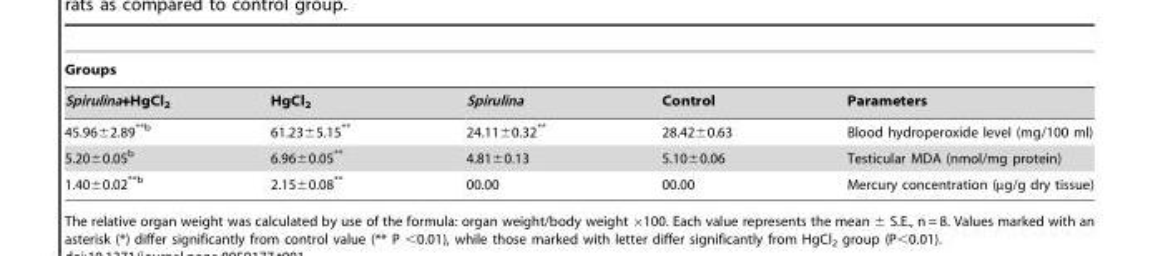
<table><thead><tr><td colspan="5">Groups</td></tr><tr><td>Spirulina+HgCl<sub>2</sub></td><td>HgCl<sub>2</sub></td><td>Spirulina</td><td>Control</td><td>Parameters</td></tr></thead><tbody><tr><td>45.96±2.89<sup>**b</sup></td><td>61.23±5.15**</td><td>24.11±0.32**</td><td>28.42±0.63</td><td>Blood hydroperoxide level (mg/100 ml)</td></tr><tr><td>5.20±0.05<sup>b</sup></td><td>6.96±0.05**</td><td>4.81±0.13</td><td>5.10±0.06</td><td>Testicular MDA (nmol/mg protein)</td></tr><tr><td>1.40±0.02<sup>**b</sup></td><td>2.15±0.08**</td><td>00.00</td><td>00.00</td><td>Mercury concentration (µg/g dry tissue)</td></tr></tbody></table>